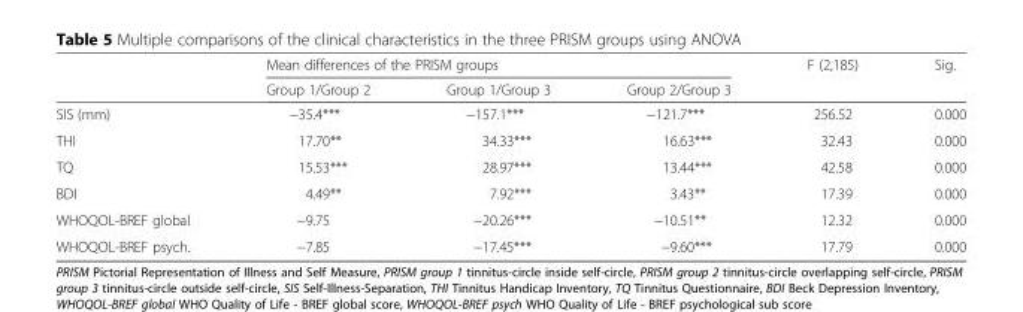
<table><thead><tr><td rowspan="2"></td><td colspan="3">Mean differences of the PRISM groups</td><td rowspan="2">F (2,185)</td><td rowspan="2">Sig.</td></tr><tr><td>Group 1/Group 2</td><td>Group 1/Group 3</td><td>Group 2/Group 3</td></tr></thead><tbody><tr><td>SIS (mm)</td><td>−35.4***</td><td>−157.1***</td><td>−121.7***</td><td>256.52</td><td>0.000</td></tr><tr><td>THI</td><td>17.70**</td><td>34.33***</td><td>16.63***</td><td>32.43</td><td>0.000</td></tr><tr><td>TQ</td><td>15.53***</td><td>28.97***</td><td>13.44***</td><td>42.58</td><td>0.000</td></tr><tr><td>BDI</td><td>4.49**</td><td>7.92***</td><td>3.43**</td><td>17.39</td><td>0.000</td></tr><tr><td>WHOQOL-BREF global</td><td>−9.75</td><td>−20.26***</td><td>−10.51**</td><td>12.32</td><td>0.000</td></tr><tr><td>WHOQOL-BREF psych.</td><td>−7.85</td><td>−17.45***</td><td>−9.60***</td><td>17.79</td><td>0.000</td></tr></tbody></table>